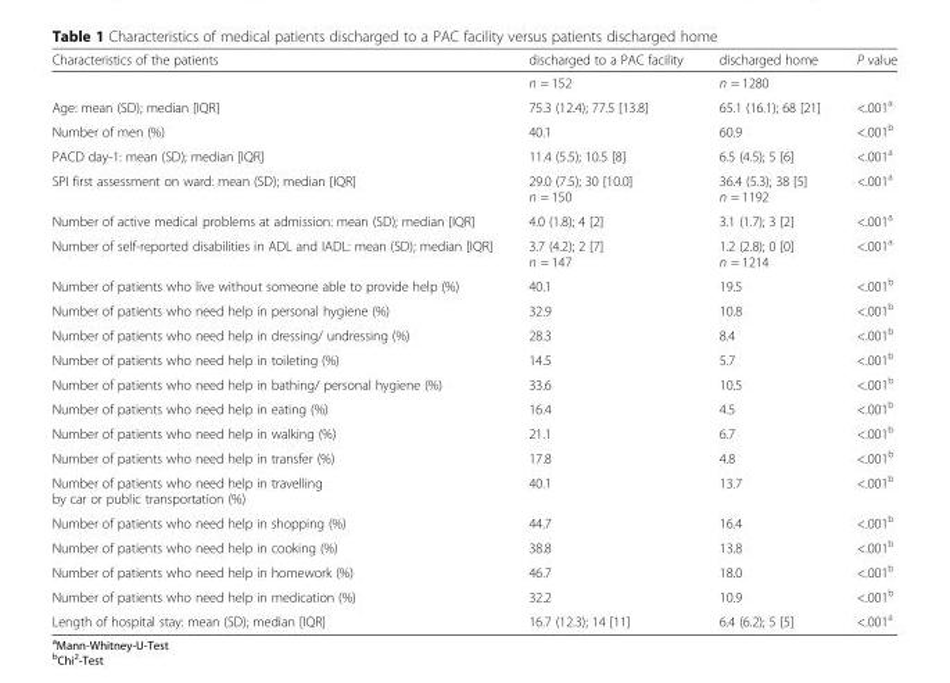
<table><thead><tr><td>Characteristics of the patients</td><td>discharged to a PAC facility</td><td>discharged home</td><td>P value</td></tr></thead><tbody><tr><td></td><td>n = 152</td><td>n = 1280</td><td></td></tr><tr><td>Age: mean (SD); median [IQR]</td><td>75.3 (12.4); 77.5 [13.8]</td><td>65.1 (16.1); 68 [21]</td><td>&lt;.001<sup>a</sup></td></tr><tr><td>Number of men (%)</td><td>40.1</td><td>60.9</td><td>&lt;.001<sup>b</sup></td></tr><tr><td>PACD day-1: mean (SD); median [IQR]</td><td>11.4 (5.5); 10.5 [8]</td><td>6.5 (4.5); 5 [6]</td><td>&lt;.001<sup>a</sup></td></tr><tr><td>SPI first assessment on ward: mean (SD); median [IQR]</td><td>29.0 (7.5); 30 [10.0] n = 150</td><td>36.4 (5.3); 38 [5] n = 1192</td><td>&lt;.001<sup>a</sup></td></tr><tr><td>Number of active medical problems at admission: mean (SD); median [IQR]</td><td>4.0 (1.8); 4 [2]</td><td>3.1 (1.7); 3 [2]</td><td>&lt;.001<sup>a</sup></td></tr><tr><td>Number of self-reported disabilities in ADL and IADL: mean (SD); median [IQR]</td><td>3.7 (4.2); 2 [7] n = 147</td><td>1.2 (2.8); 0 [0] n = 1214</td><td>&lt;.001<sup>a</sup></td></tr><tr><td>Number of patients who live without someone able to provide help (%)</td><td>40.1</td><td>19.5</td><td>&lt;.001<sup>b</sup></td></tr><tr><td>Number of patients who need help in personal hygiene (%)</td><td>32.9</td><td>10.8</td><td>&lt;.001<sup>b</sup></td></tr><tr><td>Number of patients who need help in dressing/ undressing (%)</td><td>28.3</td><td>8.4</td><td>&lt;.001<sup>b</sup></td></tr><tr><td>Number of patients who need help in toileting (%)</td><td>14.5</td><td>5.7</td><td>&lt;.001<sup>b</sup></td></tr><tr><td>Number of patients who need help in bathing/ personal hygiene (%)</td><td>33.6</td><td>10.5</td><td>&lt;.001<sup>b</sup></td></tr><tr><td>Number of patients who need help in eating (%)</td><td>16.4</td><td>4.5</td><td>&lt;.001<sup>b</sup></td></tr><tr><td>Number of patients who need help in walking (%)</td><td>21.1</td><td>6.7</td><td>&lt;.001<sup>b</sup></td></tr><tr><td>Number of patients who need help in transfer (%)</td><td>17.8</td><td>4.8</td><td>&lt;.001<sup>b</sup></td></tr><tr><td>Number of patients who need help in travelling by car or public transportation (%)</td><td>40.1</td><td>13.7</td><td>&lt;.001<sup>b</sup></td></tr><tr><td>Number of patients who need help in shopping (%)</td><td>44.7</td><td>16.4</td><td>&lt;.001<sup>b</sup></td></tr><tr><td>Number of patients who need help in cooking (%)</td><td>38.8</td><td>13.8</td><td>&lt;.001<sup>b</sup></td></tr><tr><td>Number of patients who need help in homework (%)</td><td>46.7</td><td>18.0</td><td>&lt;.001<sup>b</sup></td></tr><tr><td>Number of patients who need help in medication (%)</td><td>32.2</td><td>10.9</td><td>&lt;.001<sup>b</sup></td></tr><tr><td>Length of hospital stay: mean (SD); median [IQR]</td><td>16.7 (12.3); 14 [11]</td><td>6.4 (6.2); 5 [5]</td><td>&lt;.001<sup>a</sup></td></tr></tbody></table>